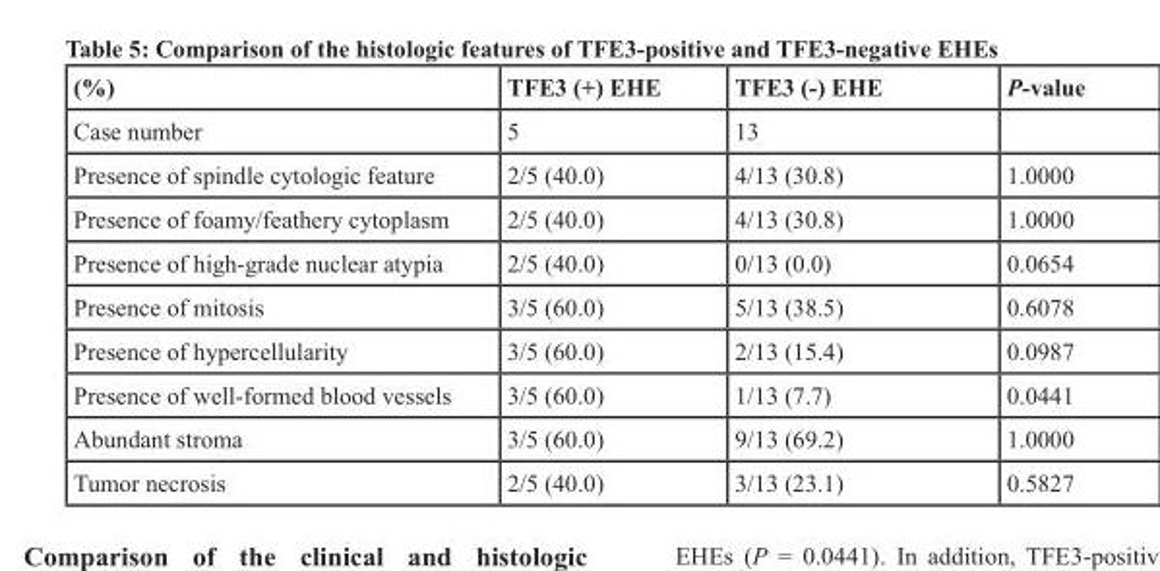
<table><thead><tr><td>(%)</td><td>TFE3 (+) EHE</td><td>TFE3 (-) EHE</td><td>P-value</td></tr></thead><tbody><tr><td>Case number</td><td>5</td><td>13</td><td></td></tr><tr><td>Presence of spindle cytologic feature</td><td>2/5 (40.0)</td><td>4/13 (30.8)</td><td>1.0000</td></tr><tr><td>Presence of foamy/feathery cytoplasm</td><td>2/5 (40.0)</td><td>4/13 (30.8)</td><td>1.0000</td></tr><tr><td>Presence of high-grade nuclear atypia</td><td>2/5 (40.0)</td><td>0/13 (0.0)</td><td>0.0654</td></tr><tr><td>Presence of mitosis</td><td>3/5 (60.0)</td><td>5/13 (38.5)</td><td>0.6078</td></tr><tr><td>Presence of hypercellularity</td><td>3/5 (60.0)</td><td>2/13 (15.4)</td><td>0.0987</td></tr><tr><td>Presence of well-formed blood vessels</td><td>3/5 (60.0)</td><td>1/13 (7.7)</td><td>0.0441</td></tr><tr><td>Abundant stroma</td><td>3/5 (60.0)</td><td>9/13 (69.2)</td><td>1.0000</td></tr><tr><td>Tumor necrosis</td><td>2/5 (40.0)</td><td>3/13 (23.1)</td><td>0.5827</td></tr></tbody></table>